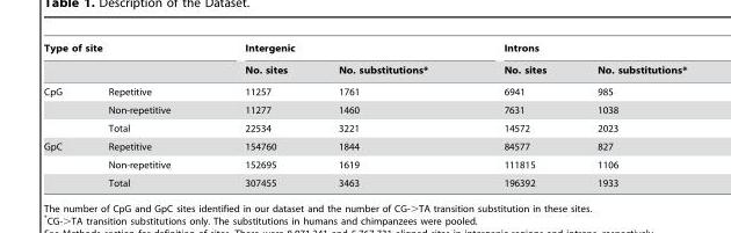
<table><thead><tr><td colspan="2">Type of site</td><td colspan="2">Intergenic</td><td colspan="2">Introns</td></tr><tr><td></td><td></td><td>No. sites</td><td>No. substitutions*</td><td>No. sites</td><td>No. substitutions*</td></tr></thead><tbody><tr><td rowspan="3">CpG</td><td>Repetitive</td><td>11257</td><td>1761</td><td>6941</td><td>985</td></tr><tr><td>Non-repetitive</td><td>11277</td><td>1460</td><td>7631</td><td>1038</td></tr><tr><td>Total</td><td>22534</td><td>3221</td><td>14572</td><td>2023</td></tr><tr><td rowspan="3">GpC</td><td>Repetitive</td><td>154760</td><td>1844</td><td>84577</td><td>827</td></tr><tr><td>Non-repetitive</td><td>152695</td><td>1619</td><td>111815</td><td>1106</td></tr><tr><td>Total</td><td>307455</td><td>3463</td><td>196392</td><td>1933</td></tr></tbody></table>